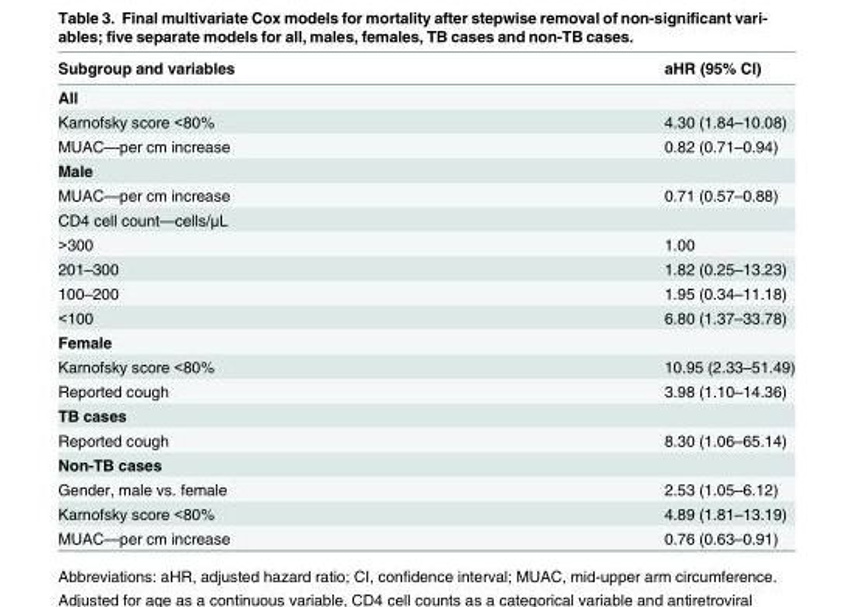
<table><thead><tr><td>Subgroup and variables</td><td>aHR (95% CI)</td></tr></thead><tbody><tr><td colspan="2">All</td></tr><tr><td>Karnofsky score &lt;80%</td><td>4.30 (1.84–10.08)</td></tr><tr><td>MUAC—per cm increase</td><td>0.82 (0.71–0.94)</td></tr><tr><td colspan="2">Male</td></tr><tr><td>MUAC—per cm increase</td><td>0.71 (0.57–0.88)</td></tr><tr><td colspan="2">CD4 cell count—cells/μL</td></tr><tr><td>&gt;300</td><td>1.00</td></tr><tr><td>201–300</td><td>1.82 (0.25–13.23)</td></tr><tr><td>100–200</td><td>1.95 (0.34–11.18)</td></tr><tr><td>&lt;100</td><td>6.80 (1.37–33.78)</td></tr><tr><td colspan="2">Female</td></tr><tr><td>Karnofsky score &lt;80%</td><td>10.95 (2.33–51.49)</td></tr><tr><td>Reported cough</td><td>3.98 (1.10–14.36)</td></tr><tr><td colspan="2">TB cases</td></tr><tr><td>Reported cough</td><td>8.30 (1.06–65.14)</td></tr><tr><td colspan="2">Non-TB cases</td></tr><tr><td>Gender, male vs. female</td><td>2.53 (1.05–6.12)</td></tr><tr><td>Karnofsky score &lt;80%</td><td>4.89 (1.81–13.19)</td></tr><tr><td>MUAC—per cm increase</td><td>0.76 (0.63–0.91)</td></tr></tbody></table>